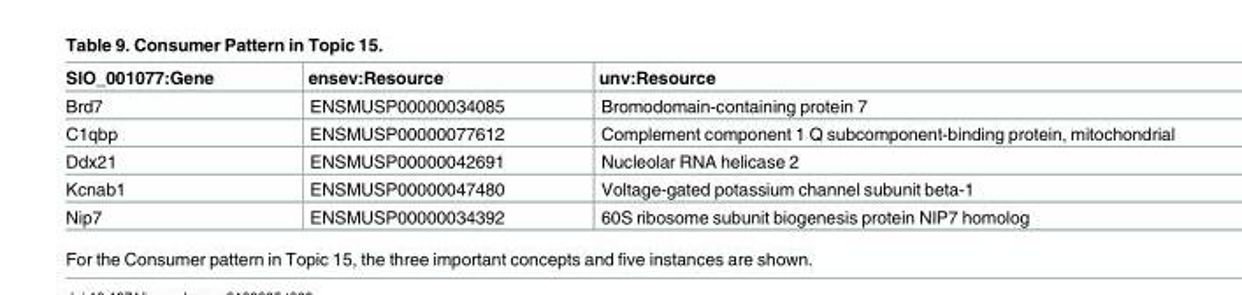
<table><thead><tr><td>SIO_001077:Gene</td><td>ensev:Resource</td><td>unv:Resource</td></tr></thead><tbody><tr><td>Brd7</td><td>ENSMUSP00000034085</td><td>Bromodomain-containing protein 7</td></tr><tr><td>C1qbp</td><td>ENSMUSP00000077612</td><td>Complement component 1 Q subcomponent-binding protein, mitochondrial</td></tr><tr><td>Ddx21</td><td>ENSMUSP00000042691</td><td>Nucleolar RNA helicase 2</td></tr><tr><td>Kcnab1</td><td>ENSMUSP00000047480</td><td>Voltage-gated potassium channel subunit beta-1</td></tr><tr><td>Nip7</td><td>ENSMUSP00000034392</td><td>60S ribosome subunit biogenesis protein NIP7 homolog</td></tr></tbody></table>